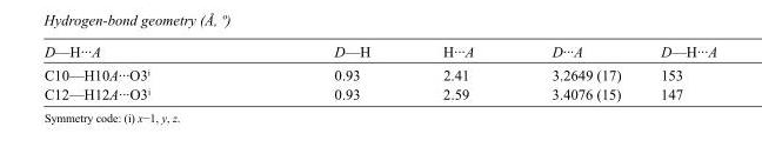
<table><tbody><tr><td>D—H···A</td><td>D—H</td><td>H···A</td><td>D···A</td><td>D—H···A</td></tr><tr><td>C10—H10A···O3<sup>i</sup></td><td>0.93</td><td>2.41</td><td>3.2649 (17)</td><td>153</td></tr><tr><td>C12—H12A···O3<sup>i</sup></td><td>0.93</td><td>2.59</td><td>3.4076 (15)</td><td>147</td></tr></tbody></table>